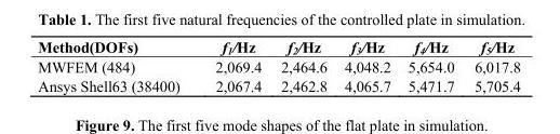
<table><thead><tr><td>Method(DOFs)</td><td>f<sub>1</sub>/Hz</td><td>f<sub>2</sub>/Hz</td><td>f<sub>3</sub>/Hz</td><td>f<sub>4</sub>/Hz</td><td>f<sub>5</sub>/Hz</td></tr></thead><tbody><tr><td>MWFEM (484)</td><td>2,069.4</td><td>2,464.6</td><td>4,048.2</td><td>5,654.0</td><td>6,017.8</td></tr><tr><td>Ansys Shell63 (38400)</td><td>2,067.4</td><td>2,462.8</td><td>4,065.7</td><td>5,471.7</td><td>5,705.4</td></tr></tbody></table>